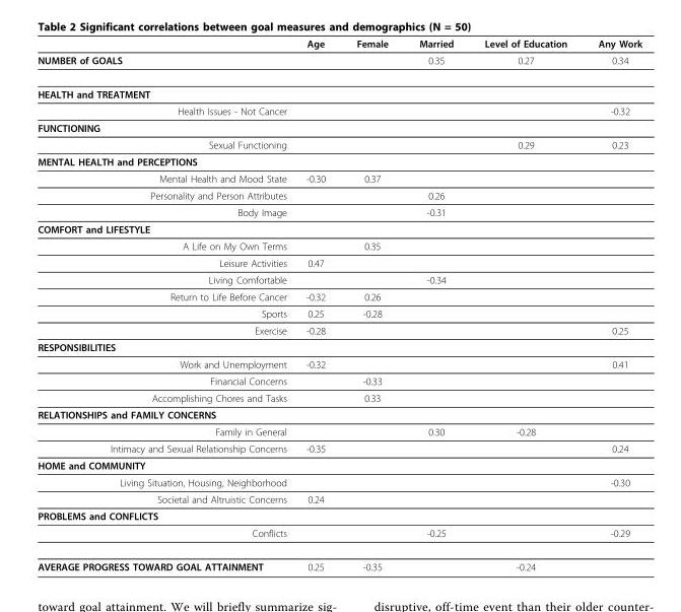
<table><thead><tr><td></td><td>Age</td><td>Female</td><td>Married</td><td>Level of Education</td><td>Any Work</td></tr></thead><tbody><tr><td>NUMBER of GOALS</td><td></td><td></td><td>0.35</td><td>0.27</td><td>0.34</td></tr><tr><td colspan="6">HEALTH and TREATMENT</td></tr><tr><td>Health Issues - Not Cancer</td><td></td><td></td><td></td><td></td><td>-0.32</td></tr><tr><td colspan="6">FUNCTIONING</td></tr><tr><td>Sexual Functioning</td><td></td><td></td><td></td><td>0.29</td><td>0.23</td></tr><tr><td colspan="6">MENTAL HEALTH and PERCEPTIONS</td></tr><tr><td>Mental Health and Mood State</td><td>-0.30</td><td>0.37</td><td></td><td></td><td></td></tr><tr><td>Personality and Person Attributes</td><td></td><td></td><td>0.26</td><td></td><td></td></tr><tr><td>Body Image</td><td></td><td></td><td>-0.31</td><td></td><td></td></tr><tr><td colspan="6">COMFORT and LIFESTYLE</td></tr><tr><td>A Life on My Own Terms</td><td></td><td>0.35</td><td></td><td></td><td></td></tr><tr><td>Leisure Activities</td><td>0.47</td><td></td><td></td><td></td><td></td></tr><tr><td>Living Comfortable</td><td></td><td></td><td>-0.34</td><td></td><td></td></tr><tr><td>Return to Life Before Cancer</td><td>-0.32</td><td>0.26</td><td></td><td></td><td></td></tr><tr><td>Sports</td><td>0.25</td><td>-0.28</td><td></td><td></td><td></td></tr><tr><td>Exercise</td><td>-0.28</td><td></td><td></td><td></td><td>0.25</td></tr><tr><td colspan="6">RESPONSIBILITIES</td></tr><tr><td>Work and Unemployment</td><td>-0.32</td><td></td><td></td><td></td><td>0.41</td></tr><tr><td>Financial Concerns</td><td></td><td>-0.33</td><td></td><td></td><td></td></tr><tr><td>Accomplishing Chores and Tasks</td><td></td><td>0.33</td><td></td><td></td><td></td></tr><tr><td colspan="6">RELATIONSHIPS and FAMILY CONCERNS</td></tr><tr><td>Family in General</td><td></td><td></td><td>0.30</td><td>-0.28</td><td></td></tr><tr><td>Intimacy and Sexual Relationship Concerns</td><td>-0.35</td><td></td><td></td><td></td><td>0.24</td></tr><tr><td colspan="6">HOME and COMMUNITY</td></tr><tr><td>Living Situation, Housing, Neighborhood</td><td></td><td></td><td></td><td></td><td>-0.30</td></tr><tr><td>Societal and Altruistic Concerns</td><td>0.24</td><td></td><td></td><td></td><td></td></tr><tr><td colspan="6">PROBLEMS and CONFLICTS</td></tr><tr><td>Conflicts</td><td></td><td></td><td>-0.25</td><td></td><td>-0.29</td></tr><tr><td>AVERAGE PROGRESS TOWARD GOAL ATTAINMENT</td><td>0.25</td><td>-0.35</td><td></td><td>-0.24</td><td></td></tr></tbody></table>